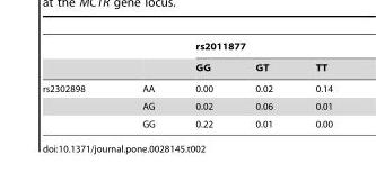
<table><thead><tr><td rowspan="2"></td><td rowspan="2"></td><td colspan="3">rs2011877</td></tr><tr><td>GG</td><td>GT</td><td>TT</td></tr></thead><tbody><tr><td rowspan="3">rs2302898</td><td>AA</td><td>0.00</td><td>0.02</td><td>0.14</td></tr><tr><td>AG</td><td>0.02</td><td>0.06</td><td>0.01</td></tr><tr><td>GG</td><td>0.22</td><td>0.01</td><td>0.00</td></tr></tbody></table>